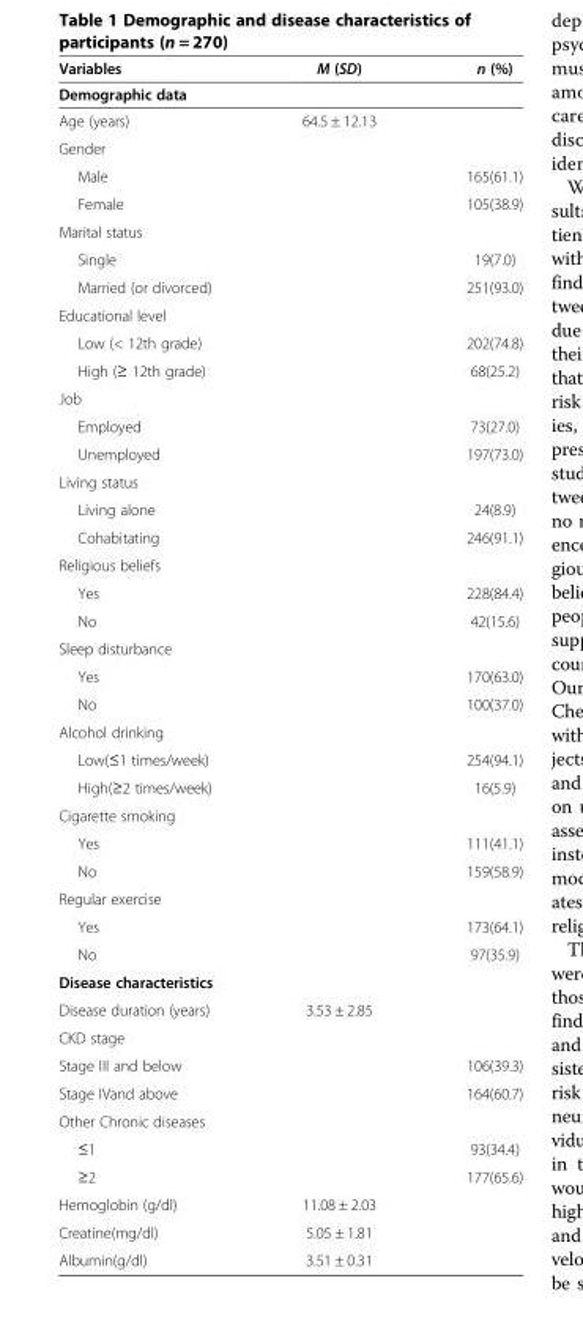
<table><thead><tr><td>Variables</td><td>M (SD)</td><td>n (%)</td></tr></thead><tbody><tr><td colspan="3">Demographic data</td></tr><tr><td>Age (years)</td><td>64.5 ± 12.13</td><td></td></tr><tr><td colspan="3">Gender</td></tr><tr><td>Male</td><td></td><td>165(61.1)</td></tr><tr><td>Female</td><td></td><td>105(38.9)</td></tr><tr><td colspan="3">Marital status</td></tr><tr><td>Single</td><td></td><td>19(7.0)</td></tr><tr><td>Married (or divorced)</td><td></td><td>251(93.0)</td></tr><tr><td colspan="3">Educational level</td></tr><tr><td>Low (&lt; 12th grade)</td><td></td><td>202(74.8)</td></tr><tr><td>High (≥ 12th grade)</td><td></td><td>68(25.2)</td></tr><tr><td colspan="3">Job</td></tr><tr><td>Employed</td><td></td><td>73(27.0)</td></tr><tr><td>Unemployed</td><td></td><td>197(73.0)</td></tr><tr><td colspan="3">Living status</td></tr><tr><td>Living alone</td><td></td><td>24(8.9)</td></tr><tr><td>Cohabitating</td><td></td><td>246(91.1)</td></tr><tr><td colspan="3">Religious beliefs</td></tr><tr><td>Yes</td><td></td><td>228(84.4)</td></tr><tr><td>No</td><td></td><td>42(15.6)</td></tr><tr><td colspan="3">Sleep disturbance</td></tr><tr><td>Yes</td><td></td><td>170(63.0)</td></tr><tr><td>No</td><td></td><td>100(37.0)</td></tr><tr><td colspan="3">Alcohol drinking</td></tr><tr><td>Low(≤1 times/week)</td><td></td><td>254(94.1)</td></tr><tr><td>High(≥2 times/week)</td><td></td><td>16(5.9)</td></tr><tr><td colspan="3">Cigarette smoking</td></tr><tr><td>Yes</td><td></td><td>111(41.1)</td></tr><tr><td>No</td><td></td><td>159(58.9)</td></tr><tr><td colspan="3">Regular exercise</td></tr><tr><td>Yes</td><td></td><td>173(64.1)</td></tr><tr><td>No</td><td></td><td>97(35.9)</td></tr><tr><td colspan="3">Disease characteristics</td></tr><tr><td>Disease duration (years)</td><td>3.53 ± 2.85</td><td></td></tr><tr><td colspan="3">CKD stage</td></tr><tr><td>Stage III and below</td><td></td><td>106(39.3)</td></tr><tr><td>Stage IVand above</td><td></td><td>164(60.7)</td></tr><tr><td colspan="3">Other Chronic diseases</td></tr><tr><td>≤1</td><td></td><td>93(34.4)</td></tr><tr><td>≥2</td><td></td><td>177(65.6)</td></tr><tr><td>Hemoglobin (g/dl)</td><td>11.08 ± 2.03</td><td></td></tr><tr><td>Creatine(mg/dl)</td><td>5.05 ± 1.81</td><td></td></tr><tr><td>Albumin(g/dl)</td><td>3.51 ± 0.31</td><td></td></tr></tbody></table>